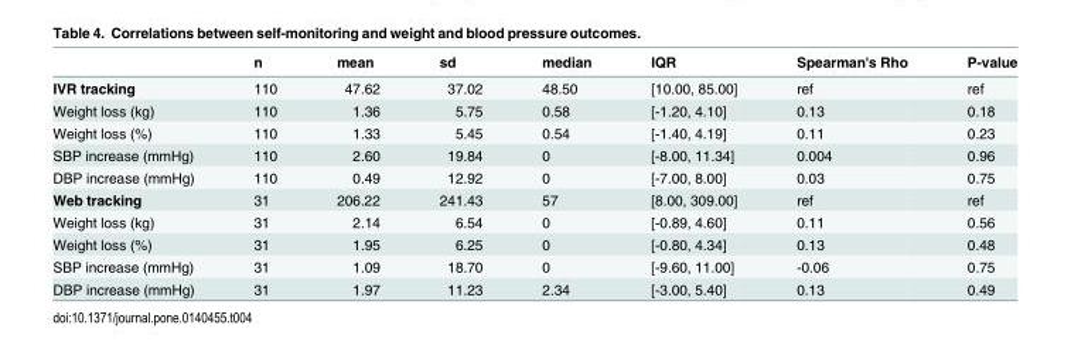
<table><thead><tr><td></td><td>n</td><td>mean</td><td>sd</td><td>median</td><td>IQR</td><td>Spearman&#x27;s Rho</td><td>P-value</td></tr></thead><tbody><tr><td>IVR tracking</td><td>110</td><td>47.62</td><td>37.02</td><td>48.50</td><td>[10.00, 85.00]</td><td>ref</td><td>ref</td></tr><tr><td>Weight loss (kg)</td><td>110</td><td>1.36</td><td>5.75</td><td>0.58</td><td>[-1.20, 4.10]</td><td>0.13</td><td>0.18</td></tr><tr><td>Weight loss (%)</td><td>110</td><td>1.33</td><td>5.45</td><td>0.54</td><td>[-1.40, 4.19]</td><td>0.11</td><td>0.23</td></tr><tr><td>SBP increase (mmHg)</td><td>110</td><td>2.60</td><td>19.84</td><td>0</td><td>[-8.00, 11.34]</td><td>0.004</td><td>0.96</td></tr><tr><td>DBP increase (mmHg)</td><td>110</td><td>0.49</td><td>12.92</td><td>0</td><td>[-7.00, 8.00]</td><td>0.03</td><td>0.75</td></tr><tr><td>Web tracking</td><td>31</td><td>206.22</td><td>241.43</td><td>57</td><td>[8.00, 309.00]</td><td>ref</td><td>ref</td></tr><tr><td>Weight loss (kg)</td><td>31</td><td>2.14</td><td>6.54</td><td>0</td><td>[-0.89, 4.60]</td><td>0.11</td><td>0.56</td></tr><tr><td>Weight loss (%)</td><td>31</td><td>1.95</td><td>6.25</td><td>0</td><td>[-0.80, 4.34]</td><td>0.13</td><td>0.48</td></tr><tr><td>SBP increase (mmHg)</td><td>31</td><td>1.09</td><td>18.70</td><td>0</td><td>[-9.60, 11.00]</td><td>-0.06</td><td>0.75</td></tr><tr><td>DBP increase (mmHg)</td><td>31</td><td>1.97</td><td>11.23</td><td>2.34</td><td>[-3.00, 5.40]</td><td>0.13</td><td>0.49</td></tr></tbody></table>